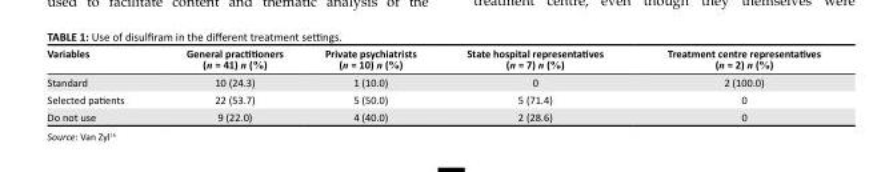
<table><thead><tr><td>Variables</td><td>General practitioners (n = 41) n (%)</td><td>Private psychiatrists (n = 10) n (%)</td><td>State hospital representatives (n = 7) n (%)</td><td>Treatment centre representatives (n = 2) n (%)</td></tr></thead><tbody><tr><td>Standard</td><td>10 (24.3)</td><td>1 (10.0)</td><td>0</td><td>2 (100.0)</td></tr><tr><td>Selected patients</td><td>22 (53.7)</td><td>5 (50.0)</td><td>5 (71.4)</td><td>0</td></tr><tr><td>Do not use</td><td>9 (22.0)</td><td>4 (40.0)</td><td>2 (28.6)</td><td>0</td></tr></tbody></table>